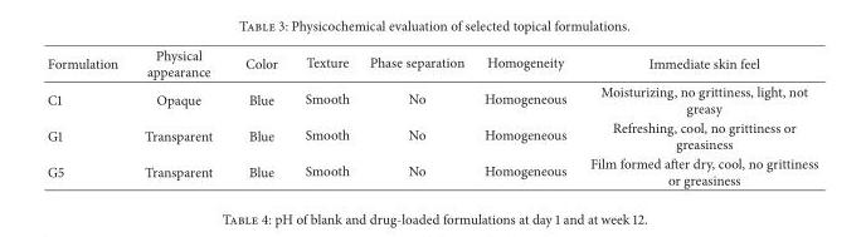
<table><thead><tr><td>Formulation</td><td>Physical appearance</td><td>Color</td><td>Texture</td><td>Phase separation</td><td>Homogeneity</td><td>Immediate skin feel</td></tr></thead><tbody><tr><td>C1</td><td>Opaque</td><td>Blue</td><td>Smooth</td><td>No</td><td>Homogeneous</td><td>Moisturizing, no grittiness, light, not greasy</td></tr><tr><td>G1</td><td>Transparent</td><td>Blue</td><td>Smooth</td><td>No</td><td>Homogeneous</td><td>Refreshing, cool, no grittiness or greasiness</td></tr><tr><td>G5</td><td>Transparent</td><td>Blue</td><td>Smooth</td><td>No</td><td>Homogeneous</td><td>Film formed after dry, cool, no grittiness or greasiness</td></tr></tbody></table>